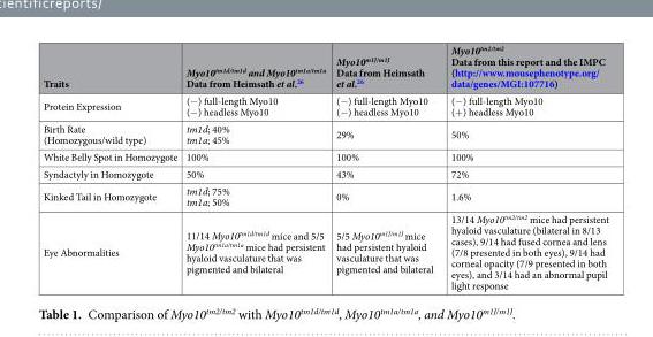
<table><thead><tr><td>Traits</td><td>Myo10<sup>tm1d/tm1d</sup> and Myo10<sup>tm1a/tm1a</sup> Data from Heimsath et al.<sup>26</sup></td><td>Myo10<sup>m1J/m1J</sup> Data from Heimsath et al.<sup>26</sup></td><td>Myo10<sup>tm2/tm2</sup> Data from this report and the IMPC (http://www.mousephenotype.org/ data/genes/MGI:107716)</td></tr></thead><tbody><tr><td>Protein Expression</td><td>(−) full-length Myo10 (−) headless Myo10</td><td>(−) full-length Myo10 (−) headless Myo10</td><td>(−) full-length Myo10 (+) headless Myo10</td></tr><tr><td>Birth Rate (Homozygous/wild type)</td><td>tm1d; 40% tm1a; 45%</td><td>29%</td><td>50%</td></tr><tr><td>White Belly Spot in Homozygote</td><td>100%</td><td>100%</td><td>100%</td></tr><tr><td>Syndactyly in Homozygote</td><td>50%</td><td>43%</td><td>72%</td></tr><tr><td>Kinked Tail in Homozygote</td><td>tm1d; 75% tm1a; 50%</td><td>0%</td><td>1.6%</td></tr><tr><td>Eye Abnormalities</td><td>11/14 Myo10<sup>tm1d/tm1d</sup> mice and 5/5 Myo10<sup>tm1a/tm1a</sup> mice had persistent hyaloid vasculature that was pigmented and bilateral</td><td>5/5 Myo10<sup>m1J/m1J</sup> mice had persistent hyaloid vasculature that was pigmented and bilateral</td><td>13/14 Myo10<sup>tm2/tm2</sup> mice had persistent hyaloid vasculature (bilateral in 8/13 cases), 9/14 had fused cornea and lens (7/8 presented in both eyes), 9/14 had corneal opacity (7/9 presented in both eyes), and 3/14 had an abnormal pupil light response</td></tr></tbody></table>